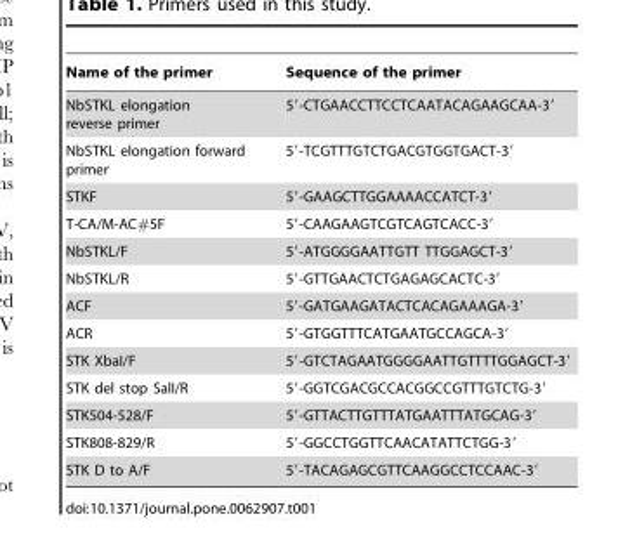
<table><thead><tr><td>Name of the primer</td><td>Sequence of the primer</td></tr></thead><tbody><tr><td>NbSTKL elongation reverse primer</td><td>5′-CTGAACCTTCCTCAATACAGAAGCAA-3′</td></tr><tr><td>NbSTKL elongation forward primer</td><td>5′-TCGTTTGTCTGACGTGGTGACT-3′</td></tr><tr><td>STKF</td><td>5′-GAAGCTTGGAAAACCATCT-3′</td></tr><tr><td>T-CA/M-AC#5F</td><td>5′-CAAGAAGTCGTCAGTCACC-3′</td></tr><tr><td>NbSTKL/F</td><td>5′-ATGGGGAATTGTT TTGGAGCT-3′</td></tr><tr><td>NbSTKL/R</td><td>5′-GTTGAACTCTGAGAGCACTC-3′</td></tr><tr><td>ACF</td><td>5′-GATGAAGATACTCACAGAAAGA-3′</td></tr><tr><td>ACR</td><td>5′-GTGGTTTCATGAATGCCAGCA-3′</td></tr><tr><td>STK XbaI/F</td><td>5′-GTCTAGAATGGGGAATTGTTTTGGAGCT-3′</td></tr><tr><td>STK del stop SalI/R</td><td>5′-GGTCGACGCCACGGCCGTTTGTCTG-3′</td></tr><tr><td>STK504-528/F</td><td>5′-GTTACTTGTTTATGAATTTATGCAG-3′</td></tr><tr><td>STK808-829/R</td><td>5′-GGCCTGGTTCAACATATTCTGG-3′</td></tr><tr><td>STK D to A/F</td><td>5′-TACAGAGCGTTCAAGGCCTCCAAC-3′</td></tr></tbody></table>